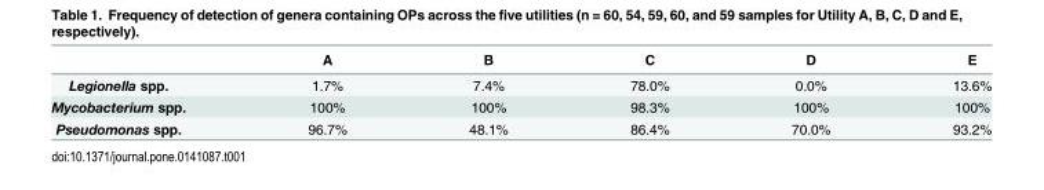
<table><thead><tr><td></td><td>A</td><td>B</td><td>C</td><td>D</td><td>E</td></tr></thead><tbody><tr><td>Legionella spp.</td><td>1.7%</td><td>7.4%</td><td>78.0%</td><td>0.0%</td><td>13.6%</td></tr><tr><td>Mycobacterium spp.</td><td>100%</td><td>100%</td><td>98.3%</td><td>100%</td><td>100%</td></tr><tr><td>Pseudomonas spp.</td><td>96.7%</td><td>48.1%</td><td>86.4%</td><td>70.0%</td><td>93.2%</td></tr></tbody></table>